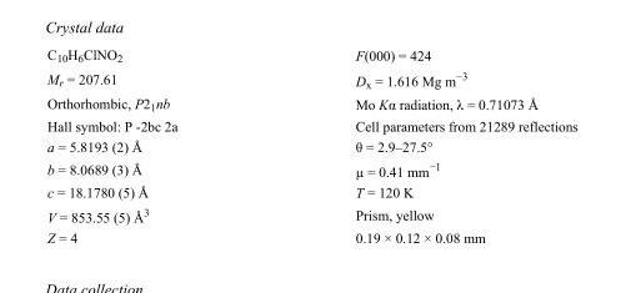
<table><tbody><tr><td>C<sub>10</sub>H<sub>6</sub>ClNO<sub>2</sub></td><td>F(000) = 424</td></tr><tr><td>M<sub>r</sub> = 207.61</td><td>D<sub>x</sub> = 1.616 Mg m<sup>−3</sup></td></tr><tr><td>Orthorhombic, P2<sub>1</sub>nb</td><td>Mo Kα radiation, λ = 0.71073 Å</td></tr><tr><td>Hall symbol: P -2bc 2a</td><td>Cell parameters from 21289 reflections</td></tr><tr><td>a = 5.8193 (2) Å</td><td>θ = 2.9–27.5°</td></tr><tr><td>b = 8.0689 (3) Å</td><td>µ = 0.41 mm<sup>−1</sup></td></tr><tr><td>c = 18.1780 (5) Å</td><td>T = 120 K</td></tr><tr><td>V = 853.55 (5) Å<sup>3</sup></td><td>Prism, yellow</td></tr><tr><td>Z = 4</td><td>0.19 × 0.12 × 0.08 mm</td></tr></tbody></table>